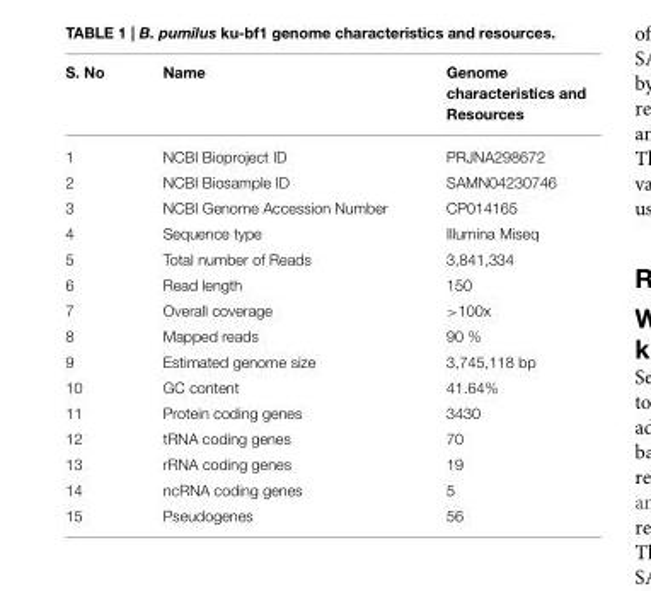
<table><thead><tr><td>S. No</td><td>Name</td><td>Genome characteristics and Resources</td></tr></thead><tbody><tr><td>1</td><td>NCBI Bioproject ID</td><td>PRJNA298672</td></tr><tr><td>2</td><td>NCBI Biosample ID</td><td>SAMN04230746</td></tr><tr><td>3</td><td>NCBI Genome Accession Number</td><td>CP014165</td></tr><tr><td>4</td><td>Sequence type</td><td>Illumina Miseq</td></tr><tr><td>5</td><td>Total number of Reads</td><td>3,841,334</td></tr><tr><td>6</td><td>Read length</td><td>150</td></tr><tr><td>7</td><td>Overall coverage</td><td>&gt;100x</td></tr><tr><td>8</td><td>Mapped reads</td><td>90 %</td></tr><tr><td>9</td><td>Estimated genome size</td><td>3,745,118 bp</td></tr><tr><td>10</td><td>GC content</td><td>41.64%</td></tr><tr><td>11</td><td>Protein coding genes</td><td>3430</td></tr><tr><td>12</td><td>tRNA coding genes</td><td>70</td></tr><tr><td>13</td><td>rRNA coding genes</td><td>19</td></tr><tr><td>14</td><td>ncRNA coding genes</td><td>5</td></tr><tr><td>15</td><td>Pseudogenes</td><td>56</td></tr></tbody></table>